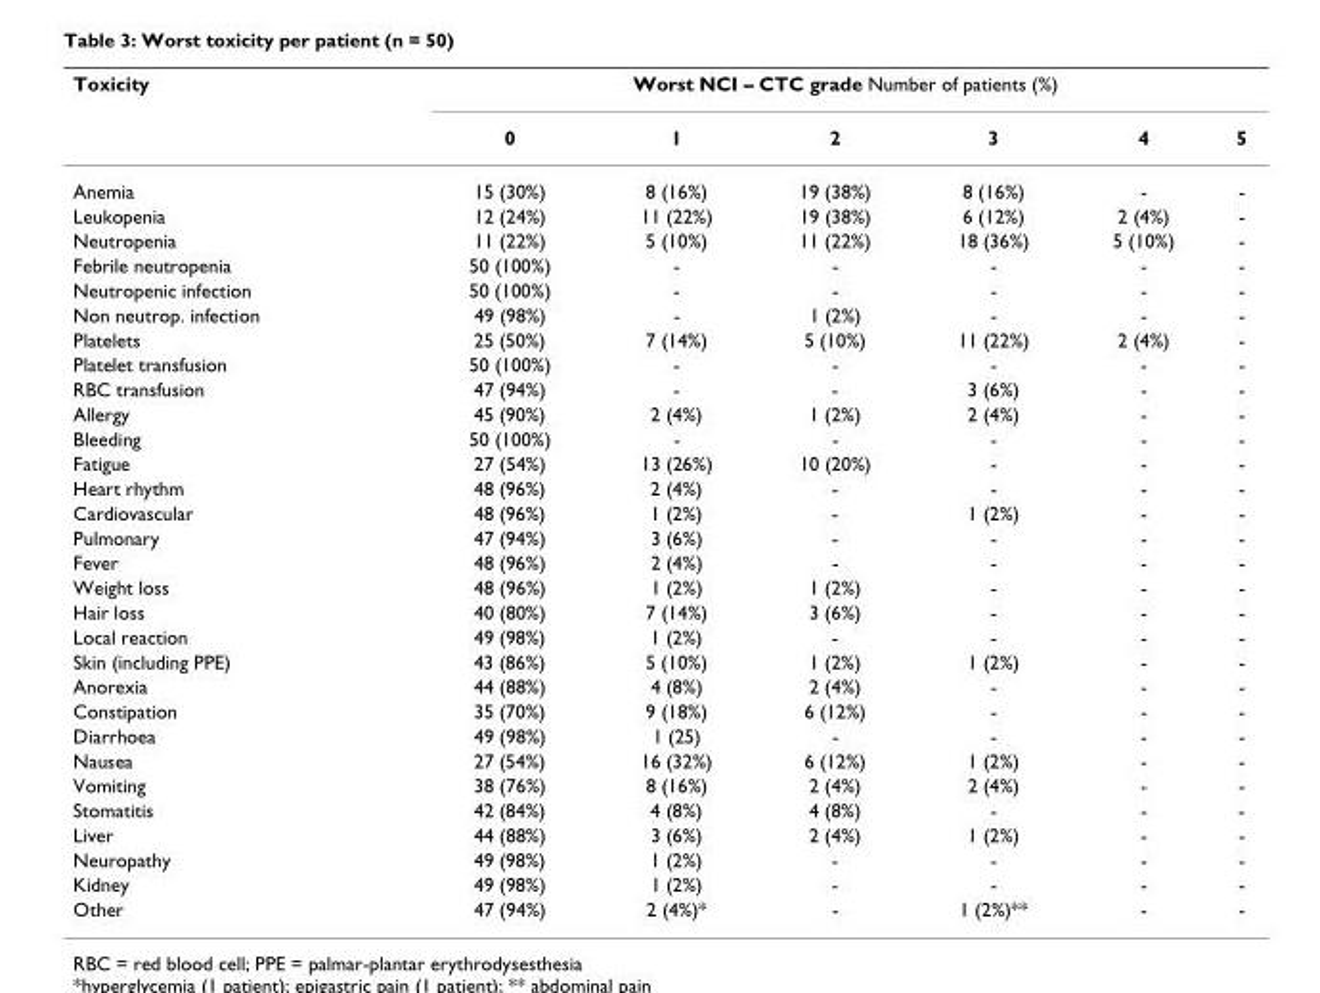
<table><thead><tr><td rowspan="2">Toxicity</td><td colspan="6">Worst NCI – CTC grade Number of patients (%)</td></tr><tr><td>0</td><td>1</td><td>2</td><td>3</td><td>4</td><td>5</td></tr></thead><tbody><tr><td>Anemia</td><td>15 (30%)</td><td>8 (16%)</td><td>19 (38%)</td><td>8 (16%)</td><td>-</td><td>-</td></tr><tr><td>Leukopenia</td><td>12 (24%)</td><td>11 (22%)</td><td>19 (38%)</td><td>6 (12%)</td><td>2 (4%)</td><td>-</td></tr><tr><td>Neutropenia</td><td>11 (22%)</td><td>5 (10%)</td><td>11 (22%)</td><td>18 (36%)</td><td>5 (10%)</td><td>-</td></tr><tr><td>Febrile neutropenia</td><td>50 (100%)</td><td>-</td><td>-</td><td>-</td><td>-</td><td>-</td></tr><tr><td>Neutropenic infection</td><td>50 (100%)</td><td>-</td><td>-</td><td>-</td><td>-</td><td>-</td></tr><tr><td>Non neutrop. infection</td><td>49 (98%)</td><td>-</td><td>1 (2%)</td><td>-</td><td>-</td><td>-</td></tr><tr><td>Platelets</td><td>25 (50%)</td><td>7 (14%)</td><td>5 (10%)</td><td>11 (22%)</td><td>2 (4%)</td><td>-</td></tr><tr><td>Platelet transfusion</td><td>50 (100%)</td><td>-</td><td>-</td><td>-</td><td>-</td><td>-</td></tr><tr><td>RBC transfusion</td><td>47 (94%)</td><td>-</td><td>-</td><td>3 (6%)</td><td>-</td><td>-</td></tr><tr><td>Allergy</td><td>45 (90%)</td><td>2 (4%)</td><td>1 (2%)</td><td>2 (4%)</td><td>-</td><td>-</td></tr><tr><td>Bleeding</td><td>50 (100%)</td><td>-</td><td>-</td><td>-</td><td>-</td><td>-</td></tr><tr><td>Fatigue</td><td>27 (54%)</td><td>13 (26%)</td><td>10 (20%)</td><td>-</td><td>-</td><td>-</td></tr><tr><td>Heart rhythm</td><td>48 (96%)</td><td>2 (4%)</td><td>-</td><td>-</td><td>-</td><td>-</td></tr><tr><td>Cardiovascular</td><td>48 (96%)</td><td>1 (2%)</td><td>-</td><td>1 (2%)</td><td>-</td><td>-</td></tr><tr><td>Pulmonary</td><td>47 (94%)</td><td>3 (6%)</td><td>-</td><td>-</td><td>-</td><td>-</td></tr><tr><td>Fever</td><td>48 (96%)</td><td>2 (4%)</td><td>-</td><td>-</td><td>-</td><td>-</td></tr><tr><td>Weight loss</td><td>48 (96%)</td><td>1 (2%)</td><td>1 (2%)</td><td>-</td><td>-</td><td>-</td></tr><tr><td>Hair loss</td><td>40 (80%)</td><td>7 (14%)</td><td>3 (6%)</td><td>-</td><td>-</td><td>-</td></tr><tr><td>Local reaction</td><td>49 (98%)</td><td>1 (2%)</td><td>-</td><td>-</td><td>-</td><td>-</td></tr><tr><td>Skin (including PPE)</td><td>43 (86%)</td><td>5 (10%)</td><td>1 (2%)</td><td>1 (2%)</td><td>-</td><td>-</td></tr><tr><td>Anorexia</td><td>44 (88%)</td><td>4 (8%)</td><td>2 (4%)</td><td>-</td><td>-</td><td>-</td></tr><tr><td>Constipation</td><td>35 (70%)</td><td>9 (18%)</td><td>6 (12%)</td><td>-</td><td>-</td><td>-</td></tr><tr><td>Diarrhoea</td><td>49 (98%)</td><td>1 (25)</td><td>-</td><td>-</td><td>-</td><td>-</td></tr><tr><td>Nausea</td><td>27 (54%)</td><td>16 (32%)</td><td>6 (12%)</td><td>1 (2%)</td><td>-</td><td>-</td></tr><tr><td>Vomiting</td><td>38 (76%)</td><td>8 (16%)</td><td>2 (4%)</td><td>2 (4%)</td><td>-</td><td>-</td></tr><tr><td>Stomatitis</td><td>42 (84%)</td><td>4 (8%)</td><td>4 (8%)</td><td>-</td><td>-</td><td>-</td></tr><tr><td>Liver</td><td>44 (88%)</td><td>3 (6%)</td><td>2 (4%)</td><td>1 (2%)</td><td>-</td><td>-</td></tr><tr><td>Neuropathy</td><td>49 (98%)</td><td>1 (2%)</td><td>-</td><td>-</td><td>-</td><td>-</td></tr><tr><td>Kidney</td><td>49 (98%)</td><td>1 (2%)</td><td>-</td><td>-</td><td>-</td><td>-</td></tr><tr><td>Other</td><td>47 (94%)</td><td>2 (4%)*</td><td>-</td><td>1 (2%)**</td><td>-</td><td>-</td></tr></tbody></table>